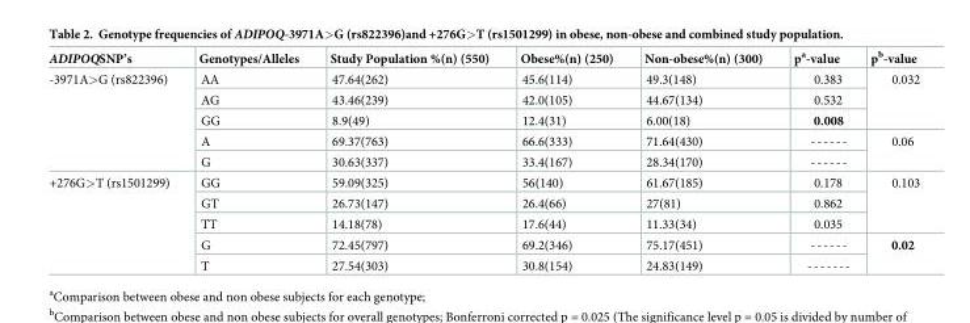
<table><thead><tr><td>ADIPOQSNP’s</td><td>Genotypes/Alleles</td><td>Study Population %(n) (550)</td><td>Obese%(n) (250)</td><td>Non-obese%(n) (300)</td><td>p<sup>a</sup>-value</td><td>p<sup>b</sup>-value</td></tr></thead><tbody><tr><td rowspan="5">-3971A&gt;G (rs822396)</td><td>AA</td><td>47.64(262)</td><td>45.6(114)</td><td>49.3(148)</td><td>0.383</td><td rowspan="3">0.032</td></tr><tr><td>AG</td><td>43.46(239)</td><td>42.0(105)</td><td>44.67(134)</td><td>0.532</td></tr><tr><td>GG</td><td>8.9(49)</td><td>12.4(31)</td><td>6.00(18)</td><td>0.008</td></tr><tr><td>A</td><td>69.37(763)</td><td>66.6(333)</td><td>71.64(430)</td><td>------</td><td rowspan="2">0.06</td></tr><tr><td>G</td><td>30.63(337)</td><td>33.4(167)</td><td>28.34(170)</td><td>------</td></tr><tr><td rowspan="5">+276G&gt;T (rs1501299)</td><td>GG</td><td>59.09(325)</td><td>56(140)</td><td>61.67(185)</td><td>0.178</td><td rowspan="3">0.103</td></tr><tr><td>GT</td><td>26.73(147)</td><td>26.4(66)</td><td>27(81)</td><td>0.862</td></tr><tr><td>TT</td><td>14.18(78)</td><td>17.6(44)</td><td>11.33(34)</td><td>0.035</td></tr><tr><td>G</td><td>72.45(797)</td><td>69.2(346)</td><td>75.17(451)</td><td>------</td><td rowspan="2">0.02</td></tr><tr><td>T</td><td>27.54(303)</td><td>30.8(154)</td><td>24.83(149)</td><td>-------</td></tr></tbody></table>